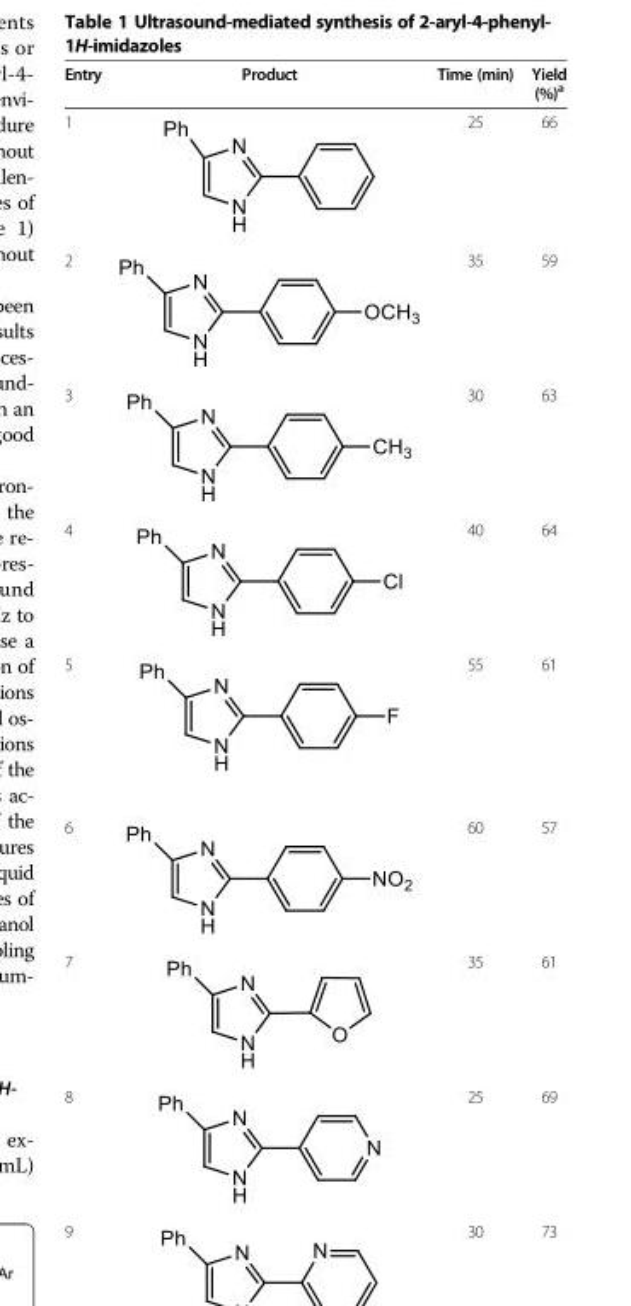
<table><thead><tr><td>Entry</td><td>Product</td><td>Time (min)</td><td>Yield (%)<sup>a</sup></td></tr></thead><tbody><tr><td>1</td><td></td><td>25</td><td>66</td></tr><tr><td>2</td><td></td><td>35</td><td>59</td></tr><tr><td>3</td><td></td><td>30</td><td>63</td></tr><tr><td>4</td><td></td><td>40</td><td>64</td></tr><tr><td>5</td><td></td><td>55</td><td>61</td></tr><tr><td>6</td><td></td><td>60</td><td>57</td></tr><tr><td>7</td><td></td><td>35</td><td>61</td></tr><tr><td>8</td><td></td><td>25</td><td>69</td></tr><tr><td>9</td><td></td><td>30</td><td>73</td></tr></tbody></table>